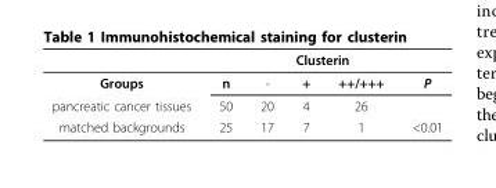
<table><thead><tr><td rowspan="2">Groups</td><td rowspan="2">n</td><td colspan="3">Clusterin</td><td rowspan="2">P</td></tr><tr><td>-</td><td>+</td><td>++/+++</td></tr></thead><tbody><tr><td>pancreatic cancer tissues</td><td>50</td><td>20</td><td>4</td><td>26</td><td></td></tr><tr><td>matched backgrounds</td><td>25</td><td>17</td><td>7</td><td>1</td><td>&lt;0.01</td></tr></tbody></table>